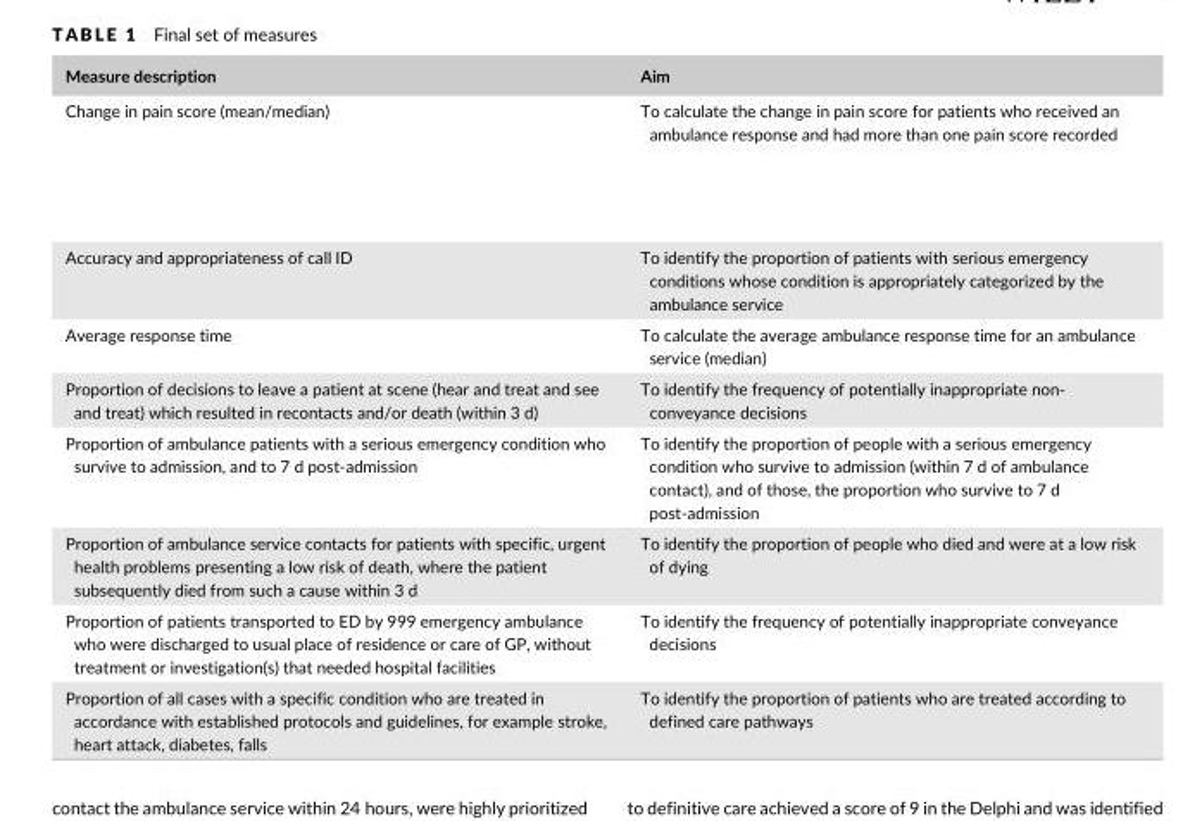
<table><thead><tr><td>Measure description</td><td>Aim</td></tr></thead><tbody><tr><td>Change in pain score (mean/median)</td><td>To calculate the change in pain score for patients who received an ambulance response and had more than one pain score recorded</td></tr><tr><td>Accuracy and appropriateness of call ID</td><td>To identify the proportion of patients with serious emergency conditions whose condition is appropriately categorized by the ambulance service</td></tr><tr><td>Average response time</td><td>To calculate the average ambulance response time for an ambulance service (median)</td></tr><tr><td>Proportion of decisions to leave a patient at scene (hear and treat and see and treat) which resulted in recontacts and/or death (within 3 d)</td><td>To identify the frequency of potentially inappropriate non- conveyance decisions</td></tr><tr><td>Proportion of ambulance patients with a serious emergency condition who survive to admission, and to 7 d post- admission</td><td>To identify the proportion of people with a serious emergency condition who survive to admission (within 7 d of ambulance contact), and of those, the proportion who survive to 7 d post- admission</td></tr><tr><td>Proportion of ambulance service contacts for patients with specific, urgent health problems presenting a low risk of death, where the patient subsequently died from such a cause within 3 d</td><td>To identify the proportion of people who died and were at a low risk of dying</td></tr><tr><td>Proportion of patients transported to ED by 999 emergency ambulance who were discharged to usual place of residence or care of GP, without treatment or investigation(s) that needed hospital facilities</td><td>To identify the frequency of potentially inappropriate conveyance decisions</td></tr><tr><td>Proportion of all cases with a specific condition who are treated in accordance with established protocols and guidelines, for example stroke, heart attack, diabetes, falls</td><td>To identify the proportion of patients who are treated according to defined care pathways</td></tr></tbody></table>